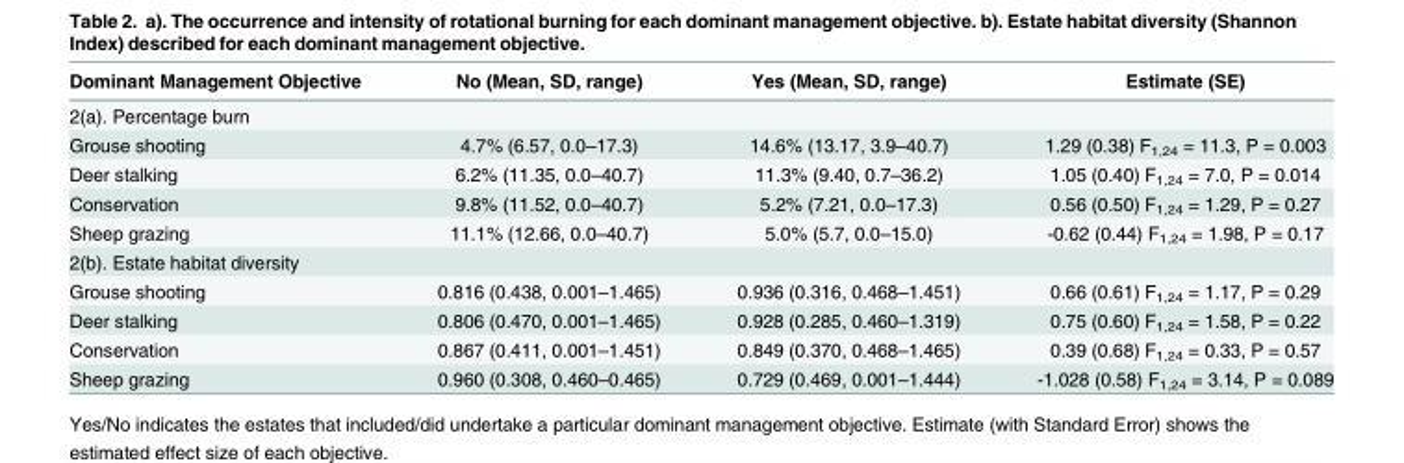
<table><thead><tr><td>Dominant Management Objective</td><td>No (Mean, SD, range)</td><td>Yes (Mean, SD, range)</td><td>Estimate (SE)</td></tr></thead><tbody><tr><td colspan="4">2(a). Percentage burn</td></tr><tr><td>Grouse shooting</td><td>4.7% (6.57, 0.0–17.3)</td><td>14.6% (13.17, 3.9–40.7)</td><td>1.29 (0.38) F<sub>1,24</sub> = 11.3, P = 0.003</td></tr><tr><td>Deer stalking</td><td>6.2% (11.35, 0.0–40.7)</td><td>11.3% (9.40, 0.7–36.2)</td><td>1.05 (0.40) F<sub>1,24</sub> = 7.0, P = 0.014</td></tr><tr><td>Conservation</td><td>9.8% (11.52, 0.0–40.7)</td><td>5.2% (7.21, 0.0–17.3)</td><td>0.56 (0.50) F<sub>1,24</sub> = 1.29, P = 0.27</td></tr><tr><td>Sheep grazing</td><td>11.1% (12.66, 0.0–40.7)</td><td>5.0% (5.7, 0.0–15.0)</td><td>-0.62 (0.44) F<sub>1,24</sub> = 1.98, P = 0.17</td></tr><tr><td colspan="4">2(b). Estate habitat diversity</td></tr><tr><td>Grouse shooting</td><td>0.816 (0.438, 0.001–1.465)</td><td>0.936 (0.316, 0.468–1.451)</td><td>0.66 (0.61) F<sub>1,24</sub> = 1.17, P = 0.29</td></tr><tr><td>Deer stalking</td><td>0.806 (0.470, 0.001–1.465)</td><td>0.928 (0.285, 0.460–1.319)</td><td>0.75 (0.60) F<sub>1,24</sub> = 1.58, P = 0.22</td></tr><tr><td>Conservation</td><td>0.867 (0.411, 0.001–1.451)</td><td>0.849 (0.370, 0.468–1.465)</td><td>0.39 (0.68) F<sub>1,24</sub> = 0.33, P = 0.57</td></tr><tr><td>Sheep grazing</td><td>0.960 (0.308, 0.460–0.465)</td><td>0.729 (0.469, 0.001–1.444)</td><td>-1.028 (0.58) F<sub>1,24</sub> = 3.14, P = 0.089</td></tr></tbody></table>